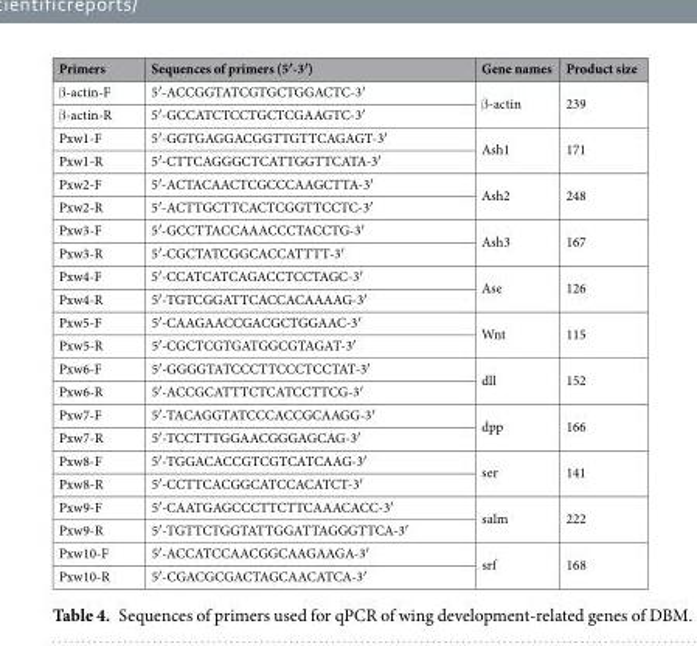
<table><thead><tr><td>Primers</td><td>Sequences of primers (5′-3′)</td><td>Gene names</td><td>Product size</td></tr></thead><tbody><tr><td>β-actin-F</td><td>5′-ACCGGTATCGTGCTGGACTC-3′</td><td rowspan="2">β-actin</td><td rowspan="2">239</td></tr><tr><td>β-actin-R</td><td>5′-GCCATCTCCTGCTCGAAGTC-3′</td></tr><tr><td>Pxw1-F</td><td>5′-GGTGAGGACGGTTGTTCAGAGT-3′</td><td rowspan="2">Ash1</td><td rowspan="2">171</td></tr><tr><td>Pxw1-R</td><td>5′-CTTCAGGGCTCATTGGTTCATA-3′</td></tr><tr><td>Pxw2-F</td><td>5′-ACTACAACTCGCCCAAGCTTA-3′</td><td rowspan="2">Ash2</td><td rowspan="2">248</td></tr><tr><td>Pxw2-R</td><td>5′-ACTTGCTTCACTCGGTTCCTC-3′</td></tr><tr><td>Pxw3-F</td><td>5′-GCCTTACCAAACCCTACCTG-3′</td><td rowspan="2">Ash3</td><td rowspan="2">167</td></tr><tr><td>Pxw3-R</td><td>5′-CGCTATCGGCACCATTTT-3′</td></tr><tr><td>Pxw4-F</td><td>5′-CCATCATCAGACCTCCTAGC-3′</td><td rowspan="2">Ase</td><td rowspan="2">126</td></tr><tr><td>Pxw4-R</td><td>5′-TGTCGGATTCACCACAAAAG-3′</td></tr><tr><td>Pxw5-F</td><td>5′-CAAGAACCGACGCTGGAAC-3′</td><td rowspan="2">Wnt</td><td rowspan="2">115</td></tr><tr><td>Pxw5-R</td><td>5′-CGCTCGTGATGGCGTAGAT-3′</td></tr><tr><td>Pxw6-F</td><td>5′-GGGGTATCCCTTCCCTCCTAT-3′</td><td rowspan="2">dll</td><td rowspan="2">152</td></tr><tr><td>Pxw6-R</td><td>5′-ACCGCATTTCTCATCCTTCG-3′</td></tr><tr><td>Pxw7-F</td><td>5′-TACAGGTATCCCACCGCAAGG-3′</td><td rowspan="2">dpp</td><td rowspan="2">166</td></tr><tr><td>Pxw7-R</td><td>5′-TCCTTTGGAACGGGAGCAG-3′</td></tr><tr><td>Pxw8-F</td><td>5′-TGGACACCGTCGTCATCAAG-3′</td><td rowspan="2">ser</td><td rowspan="2">141</td></tr><tr><td>Pxw8-R</td><td>5′-CCTTCACGGCATCCACATCT-3′</td></tr><tr><td>Pxw9-F</td><td>5′-CAATGAGCCCTTCTTCAAACACC-3′</td><td rowspan="2">salm</td><td rowspan="2">222</td></tr><tr><td>Pxw9-R</td><td>5′-TGTTCTGGTATTGGATTAGGGTTCA-3′</td></tr><tr><td>Pxw10-F</td><td>5′-ACCATCCAACGGCAAGAAGA-3′</td><td rowspan="2">srf</td><td rowspan="2">168</td></tr><tr><td>Pxw10-R</td><td>5′-CGACGCGACTAGCAACATCA-3′</td></tr></tbody></table>